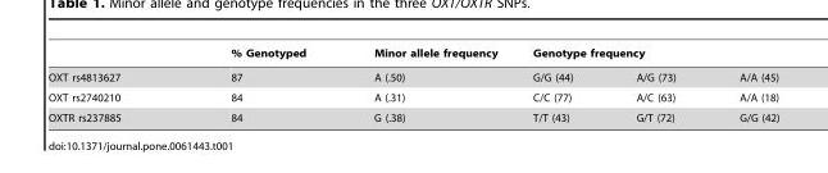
<table><thead><tr><td rowspan="2">OXT rs4813627</td><td rowspan="2">% Genotyped 87</td><td rowspan="2">Minor allele frequency A (.50)</td><td colspan="3">Genotype frequency</td></tr><tr><td>G/G (44)</td><td>A/G (73)</td><td>A/A (45)</td></tr></thead><tbody><tr><td>OXT rs2740210</td><td>84</td><td>A (.31)</td><td>C/C (77)</td><td>A/C (63)</td><td>A/A (18)</td></tr><tr><td>OXTR rs237885</td><td>84</td><td>G (.38)</td><td>T/T (43)</td><td>G/T (72)</td><td>G/G (42)</td></tr></tbody></table>